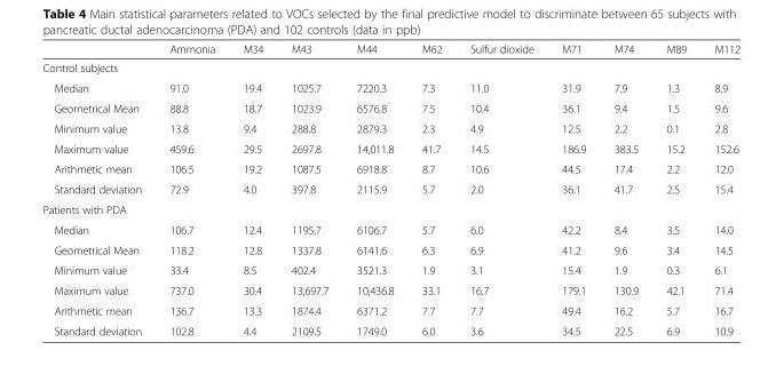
<table><thead><tr><td></td><td>Ammonia</td><td>M34</td><td>M43</td><td>M44</td><td>M62</td><td>Sulfur dioxide</td><td>M71</td><td>M74</td><td>M89</td><td>M112</td></tr></thead><tbody><tr><td colspan="11">Control subjects</td></tr><tr><td>Median</td><td>91.0</td><td>19.4</td><td>1025.7</td><td>7220.3</td><td>7.3</td><td>11.0</td><td>31.9</td><td>7.9</td><td>1.3</td><td>8.9</td></tr><tr><td>Geometrical Mean</td><td>88.8</td><td>18.7</td><td>1023.9</td><td>6576.8</td><td>7.5</td><td>10.4</td><td>36.1</td><td>9.4</td><td>1.5</td><td>9.6</td></tr><tr><td>Minimum value</td><td>13.8</td><td>9.4</td><td>288.8</td><td>2879.3</td><td>2.3</td><td>4.9</td><td>12.5</td><td>2.2</td><td>0.1</td><td>2.8</td></tr><tr><td>Maximum value</td><td>459.6</td><td>29.5</td><td>2697.8</td><td>14,011.8</td><td>41.7</td><td>14.5</td><td>186.9</td><td>383.5</td><td>15.2</td><td>152.6</td></tr><tr><td>Arithmetic mean</td><td>106.5</td><td>19.2</td><td>1087.5</td><td>6918.8</td><td>8.7</td><td>10.6</td><td>44.5</td><td>17.4</td><td>2.2</td><td>12.0</td></tr><tr><td>Standard deviation</td><td>72.9</td><td>4.0</td><td>397.8</td><td>2115.9</td><td>5.7</td><td>2.0</td><td>36.1</td><td>41.7</td><td>2.5</td><td>15.4</td></tr><tr><td colspan="11">Patients with PDA</td></tr><tr><td>Median</td><td>106.7</td><td>12.4</td><td>1195.7</td><td>6106.7</td><td>5.7</td><td>6.0</td><td>42.2</td><td>8.4</td><td>3.5</td><td>14.0</td></tr><tr><td>Geometrical Mean</td><td>118.2</td><td>12.8</td><td>1337.8</td><td>6141.6</td><td>6.3</td><td>6.9</td><td>41.2</td><td>9.6</td><td>3.4</td><td>14.5</td></tr><tr><td>Minimum value</td><td>33.4</td><td>8.5</td><td>402.4</td><td>3521.3</td><td>1.9</td><td>3.1</td><td>15.4</td><td>1.9</td><td>0.3</td><td>6.1</td></tr><tr><td>Maximum value</td><td>737.0</td><td>30.4</td><td>13,697.7</td><td>10,436.8</td><td>33.1</td><td>16.7</td><td>179.1</td><td>130.9</td><td>42.1</td><td>71.4</td></tr><tr><td>Arithmetic mean</td><td>136.7</td><td>13.3</td><td>1874.4</td><td>6371.2</td><td>7.7</td><td>7.7</td><td>49.4</td><td>16.2</td><td>5.7</td><td>16.7</td></tr><tr><td>Standard deviation</td><td>102.8</td><td>4.4</td><td>2109.5</td><td>1749.0</td><td>6.0</td><td>3.6</td><td>34.5</td><td>22.5</td><td>6.9</td><td>10.9</td></tr></tbody></table>